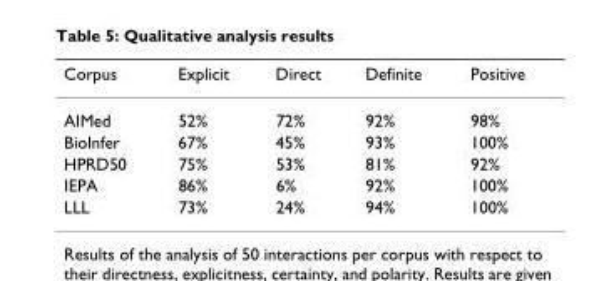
<table><thead><tr><td>Corpus</td><td>Explicit</td><td>Direct</td><td>Definite</td><td>Positive</td></tr></thead><tbody><tr><td>AIMed</td><td>52%</td><td>72%</td><td>92%</td><td>98%</td></tr><tr><td>BioInfer</td><td>67%</td><td>45%</td><td>93%</td><td>100%</td></tr><tr><td>HPRD50</td><td>75%</td><td>53%</td><td>81%</td><td>92%</td></tr><tr><td>IEPA</td><td>86%</td><td>6%</td><td>92%</td><td>100%</td></tr><tr><td>LLL</td><td>73%</td><td>24%</td><td>94%</td><td>100%</td></tr></tbody></table>